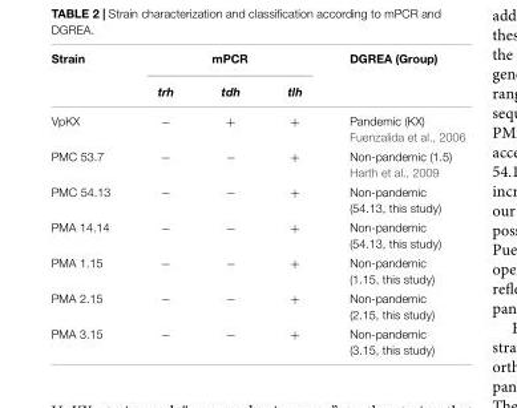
<table><thead><tr><td rowspan="2">Strain</td><td colspan="3">mPCR</td><td rowspan="2">DGREA (Group)</td></tr><tr><td>trh</td><td>tdh</td><td>tlh</td></tr></thead><tbody><tr><td>VpKX</td><td>−</td><td>+</td><td>+</td><td>Pandemic (KX) Fuenzalida et al., 2006</td></tr><tr><td>PMC 53.7</td><td>−</td><td>−</td><td>+</td><td>Non-pandemic (1.5) Harth et al., 2009</td></tr><tr><td>PMC 54.13</td><td>−</td><td>−</td><td>+</td><td>Non-pandemic (54.13, this study)</td></tr><tr><td>PMA 14.14</td><td>−</td><td>−</td><td>+</td><td>Non-pandemic (54.13, this study)</td></tr><tr><td>PMA 1.15</td><td>−</td><td>−</td><td>+</td><td>Non-pandemic (1.15, this study)</td></tr><tr><td>PMA 2.15</td><td>−</td><td>−</td><td>+</td><td>Non-pandemic (2.15, this study)</td></tr><tr><td>PMA 3.15</td><td>−</td><td>−</td><td>+</td><td>Non-pandemic (3.15, this study)</td></tr></tbody></table>